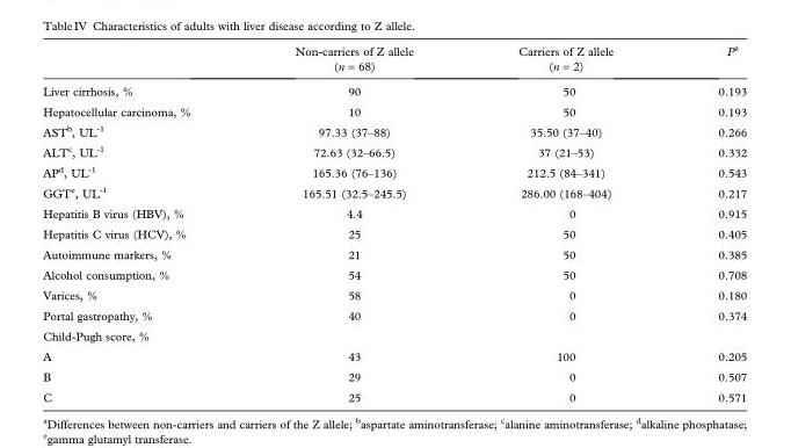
<table><thead><tr><td></td><td>Non-carriers of Z allele (n = 68)</td><td>Carriers of Z allele (n = 2)</td><td>P<sup>a</sup></td></tr></thead><tbody><tr><td>Liver cirrhosis, %</td><td>90</td><td>50</td><td>0.193</td></tr><tr><td>Hepatocellular carcinoma, %</td><td>10</td><td>50</td><td>0.193</td></tr><tr><td>AST<sup>b</sup>, UL<sup>-1</sup></td><td>97.33 (37–88)</td><td>35.50 (37–40)</td><td>0.266</td></tr><tr><td>ALT<sup>c</sup>, UL<sup>-1</sup></td><td>72.63 (32–66.5)</td><td>37 (21–53)</td><td>0.332</td></tr><tr><td>AP<sup>d</sup>, UL<sup>-1</sup></td><td>165.36 (76–136)</td><td>212.5 (84–341)</td><td>0.543</td></tr><tr><td>GGT<sup>e</sup>, UL<sup>-1</sup></td><td>165.51 (32.5–245.5)</td><td>286.00 (168–404)</td><td>0.217</td></tr><tr><td>Hepatitis B virus (HBV), %</td><td>4.4</td><td>0</td><td>0.915</td></tr><tr><td>Hepatitis C virus (HCV), %</td><td>25</td><td>50</td><td>0.405</td></tr><tr><td>Autoimmune markers, %</td><td>21</td><td>50</td><td>0.385</td></tr><tr><td>Alcohol consumption, %</td><td>54</td><td>50</td><td>0.708</td></tr><tr><td>Varices, %</td><td>58</td><td>0</td><td>0.180</td></tr><tr><td>Portal gastropathy, %</td><td>40</td><td>0</td><td>0.374</td></tr><tr><td colspan="4">Child-Pugh score, %</td></tr><tr><td>A</td><td>43</td><td>100</td><td>0.205</td></tr><tr><td>B</td><td>29</td><td>0</td><td>0.507</td></tr><tr><td>C</td><td>25</td><td>0</td><td>0.571</td></tr></tbody></table>